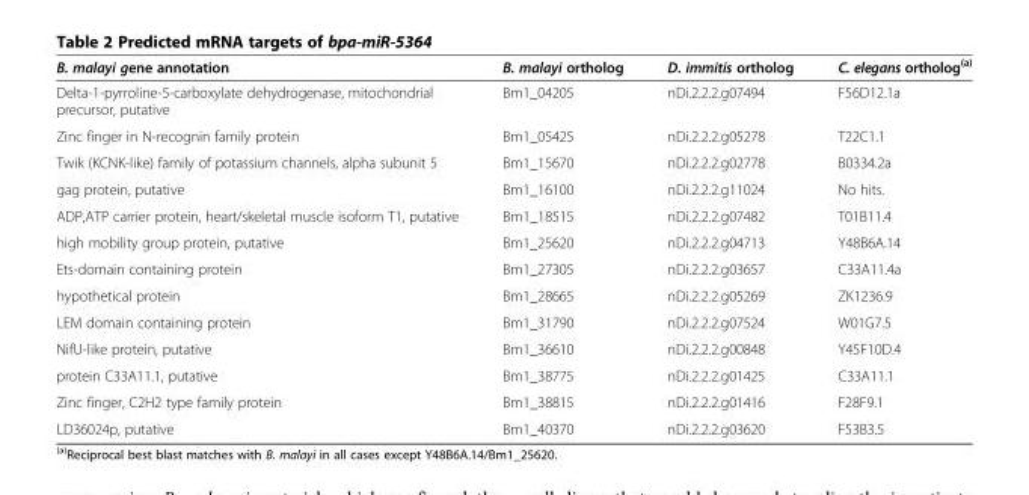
<table><thead><tr><td>B. malayi gene annotation</td><td>B. malayi ortholog</td><td>D. immitis ortholog</td><td>C. elegans ortholog<sup>(a)</sup></td></tr></thead><tbody><tr><td>Delta-1-pyrroline-5-carboxylate dehydrogenase, mitochondrial precursor, putative</td><td>Bm1_04205</td><td>nDi.2.2.2.g07494</td><td>F56D12.1a</td></tr><tr><td>Zinc finger in N-recognin family protein</td><td>Bm1_05425</td><td>nDi.2.2.2.g05278</td><td>T22C1.1</td></tr><tr><td>Twik (KCNK-like) family of potassium channels, alpha subunit 5</td><td>Bm1_15670</td><td>nDi.2.2.2.g02778</td><td>B0334.2a</td></tr><tr><td>gag protein, putative</td><td>Bm1_16100</td><td>nDi.2.2.2.g11024</td><td>No hits.</td></tr><tr><td>ADP,ATP carrier protein, heart/skeletal muscle isoform T1, putative</td><td>Bm1_18515</td><td>nDi.2.2.2.g07482</td><td>T01B11.4</td></tr><tr><td>high mobility group protein, putative</td><td>Bm1_25620</td><td>nDi.2.2.2.g04713</td><td>Y48B6A.14</td></tr><tr><td>Ets-domain containing protein</td><td>Bm1_27305</td><td>nDi.2.2.2.g03657</td><td>C33A11.4a</td></tr><tr><td>hypothetical protein</td><td>Bm1_28665</td><td>nDi.2.2.2.g05269</td><td>ZK1236.9</td></tr><tr><td>LEM domain containing protein</td><td>Bm1_31790</td><td>nDi.2.2.2.g07524</td><td>W01G7.5</td></tr><tr><td>NifU-like protein, putative</td><td>Bm1_36610</td><td>nDi.2.2.2.g00848</td><td>Y45F10D.4</td></tr><tr><td>protein C33A11.1, putative</td><td>Bm1_38775</td><td>nDi.2.2.2.g01425</td><td>C33A11.1</td></tr><tr><td>Zinc finger, C2H2 type family protein</td><td>Bm1_38815</td><td>nDi.2.2.2.g01416</td><td>F28F9.1</td></tr><tr><td>LD36024p, putative</td><td>Bm1_40370</td><td>nDi.2.2.2.g03620</td><td>F53B3.5</td></tr></tbody></table>